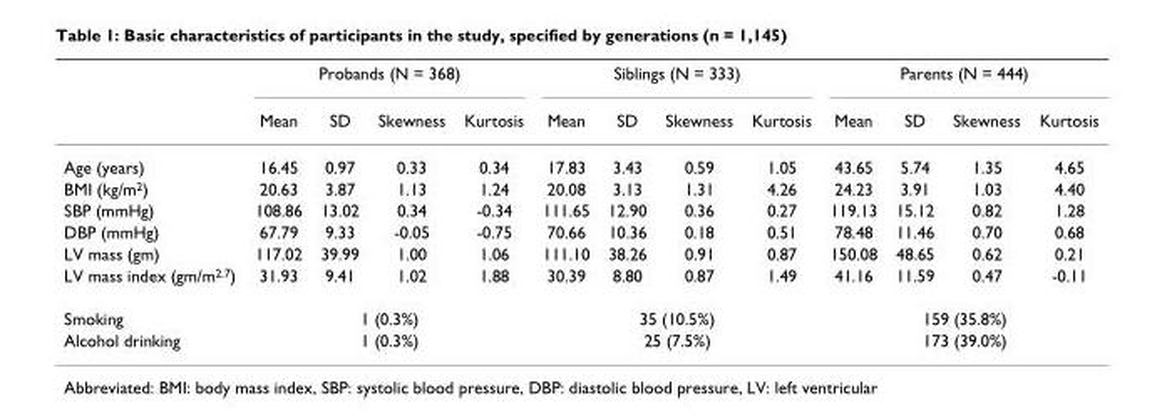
<table><thead><tr><td rowspan="2"></td><td colspan="4">Probands (N = 368)</td><td colspan="4">Siblings (N = 333)</td><td colspan="4">Parents (N = 444)</td></tr><tr><td>Mean</td><td>SD</td><td>Skewness</td><td>Kurtosis</td><td>Mean</td><td>SD</td><td>Skewness</td><td>Kurtosis</td><td>Mean</td><td>SD</td><td>Skewness</td><td>Kurtosis</td></tr></thead><tbody><tr><td>Age (years)</td><td>16.45</td><td>0.97</td><td>0.33</td><td>0.34</td><td>17.83</td><td>3.43</td><td>0.59</td><td>1.05</td><td>43.65</td><td>5.74</td><td>1.35</td><td>4.65</td></tr><tr><td>BMI (kg/m<sup>2</sup>)</td><td>20.63</td><td>3.87</td><td>1.13</td><td>1.24</td><td>20.08</td><td>3.13</td><td>1.31</td><td>4.26</td><td>24.23</td><td>3.91</td><td>1.03</td><td>4.40</td></tr><tr><td>SBP (mmHg)</td><td>108.86</td><td>13.02</td><td>0.34</td><td>-0.34</td><td>111.65</td><td>12.90</td><td>0.36</td><td>0.27</td><td>119.13</td><td>15.12</td><td>0.82</td><td>1.28</td></tr><tr><td>DBP (mmHg)</td><td>67.79</td><td>9.33</td><td>-0.05</td><td>-0.75</td><td>70.66</td><td>10.36</td><td>0.18</td><td>0.51</td><td>78.48</td><td>11.46</td><td>0.70</td><td>0.68</td></tr><tr><td>LV mass (gm)</td><td>117.02</td><td>39.99</td><td>1.00</td><td>1.06</td><td>111.10</td><td>38.26</td><td>0.91</td><td>0.87</td><td>150.08</td><td>48.65</td><td>0.62</td><td>0.21</td></tr><tr><td>LV mass index (gm/m<sup>2.7</sup>)</td><td>31.93</td><td>9.41</td><td>1.02</td><td>1.88</td><td>30.39</td><td>8.80</td><td>0.87</td><td>1.49</td><td>41.16</td><td>11.59</td><td>0.47</td><td>-0.11</td></tr><tr><td>Smoking</td><td colspan="4">1 (0.3%)</td><td colspan="4">35 (10.5%)</td><td colspan="4">159 (35.8%)</td></tr><tr><td>Alcohol drinking</td><td colspan="4">1 (0.3%)</td><td colspan="4">25 (7.5%)</td><td colspan="4">173 (39.0%)</td></tr></tbody></table>